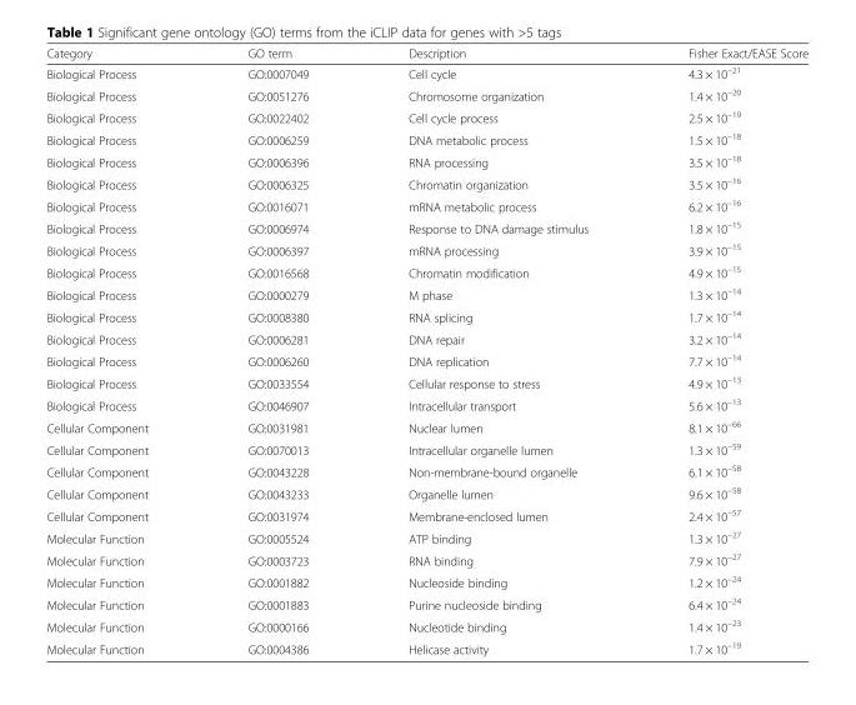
<table><thead><tr><td>Category</td><td>GO term</td><td>Description</td><td>Fisher Exact/EASE Score</td></tr></thead><tbody><tr><td>Biological Process</td><td>GO:0007049</td><td>Cell cycle</td><td>4.3 × 10<sup>–21</sup></td></tr><tr><td>Biological Process</td><td>GO:0051276</td><td>Chromosome organization</td><td>1.4 × 10<sup>–20</sup></td></tr><tr><td>Biological Process</td><td>GO:0022402</td><td>Cell cycle process</td><td>2.5 × 10<sup>–19</sup></td></tr><tr><td>Biological Process</td><td>GO:0006259</td><td>DNA metabolic process</td><td>1.5 × 10<sup>–18</sup></td></tr><tr><td>Biological Process</td><td>GO:0006396</td><td>RNA processing</td><td>3.5 × 10<sup>–18</sup></td></tr><tr><td>Biological Process</td><td>GO:0006325</td><td>Chromatin organization</td><td>3.5 × 10<sup>–16</sup></td></tr><tr><td>Biological Process</td><td>GO:0016071</td><td>mRNA metabolic process</td><td>6.2 × 10<sup>–16</sup></td></tr><tr><td>Biological Process</td><td>GO:0006974</td><td>Response to DNA damage stimulus</td><td>1.8 × 10<sup>–15</sup></td></tr><tr><td>Biological Process</td><td>GO:0006397</td><td>mRNA processing</td><td>3.9 × 10<sup>–15</sup></td></tr><tr><td>Biological Process</td><td>GO:0016568</td><td>Chromatin modification</td><td>4.9 × 10<sup>–15</sup></td></tr><tr><td>Biological Process</td><td>GO:0000279</td><td>M phase</td><td>1.3 × 10<sup>–14</sup></td></tr><tr><td>Biological Process</td><td>GO:0008380</td><td>RNA splicing</td><td>1.7 × 10<sup>–14</sup></td></tr><tr><td>Biological Process</td><td>GO:0006281</td><td>DNA repair</td><td>3.2 × 10<sup>–14</sup></td></tr><tr><td>Biological Process</td><td>GO:0006260</td><td>DNA replication</td><td>7.7 × 10<sup>–14</sup></td></tr><tr><td>Biological Process</td><td>GO:0033554</td><td>Cellular response to stress</td><td>4.9 × 10<sup>–13</sup></td></tr><tr><td>Biological Process</td><td>GO:0046907</td><td>Intracellular transport</td><td>5.6 × 10<sup>–13</sup></td></tr><tr><td>Cellular Component</td><td>GO:0031981</td><td>Nuclear lumen</td><td>8.1 × 10<sup>–66</sup></td></tr><tr><td>Cellular Component</td><td>GO:0070013</td><td>Intracellular organelle lumen</td><td>1.3 × 10<sup>–59</sup></td></tr><tr><td>Cellular Component</td><td>GO:0043228</td><td>Non-membrane-bound organelle</td><td>6.1 × 10<sup>–58</sup></td></tr><tr><td>Cellular Component</td><td>GO:0043233</td><td>Organelle lumen</td><td>9.6 × 10<sup>–58</sup></td></tr><tr><td>Cellular Component</td><td>GO:0031974</td><td>Membrane-enclosed lumen</td><td>2.4 × 10<sup>–57</sup></td></tr><tr><td>Molecular Function</td><td>GO:0005524</td><td>ATP binding</td><td>1.3 × 10<sup>–27</sup></td></tr><tr><td>Molecular Function</td><td>GO:0003723</td><td>RNA binding</td><td>7.9 × 10<sup>–27</sup></td></tr><tr><td>Molecular Function</td><td>GO:0001882</td><td>Nucleoside binding</td><td>1.2 × 10<sup>–24</sup></td></tr><tr><td>Molecular Function</td><td>GO:0001883</td><td>Purine nucleoside binding</td><td>6.4 × 10<sup>–24</sup></td></tr><tr><td>Molecular Function</td><td>GO:0000166</td><td>Nucleotide binding</td><td>1.4 × 10<sup>–23</sup></td></tr><tr><td>Molecular Function</td><td>GO:0004386</td><td>Helicase activity</td><td>1.7 × 10<sup>–19</sup></td></tr></tbody></table>